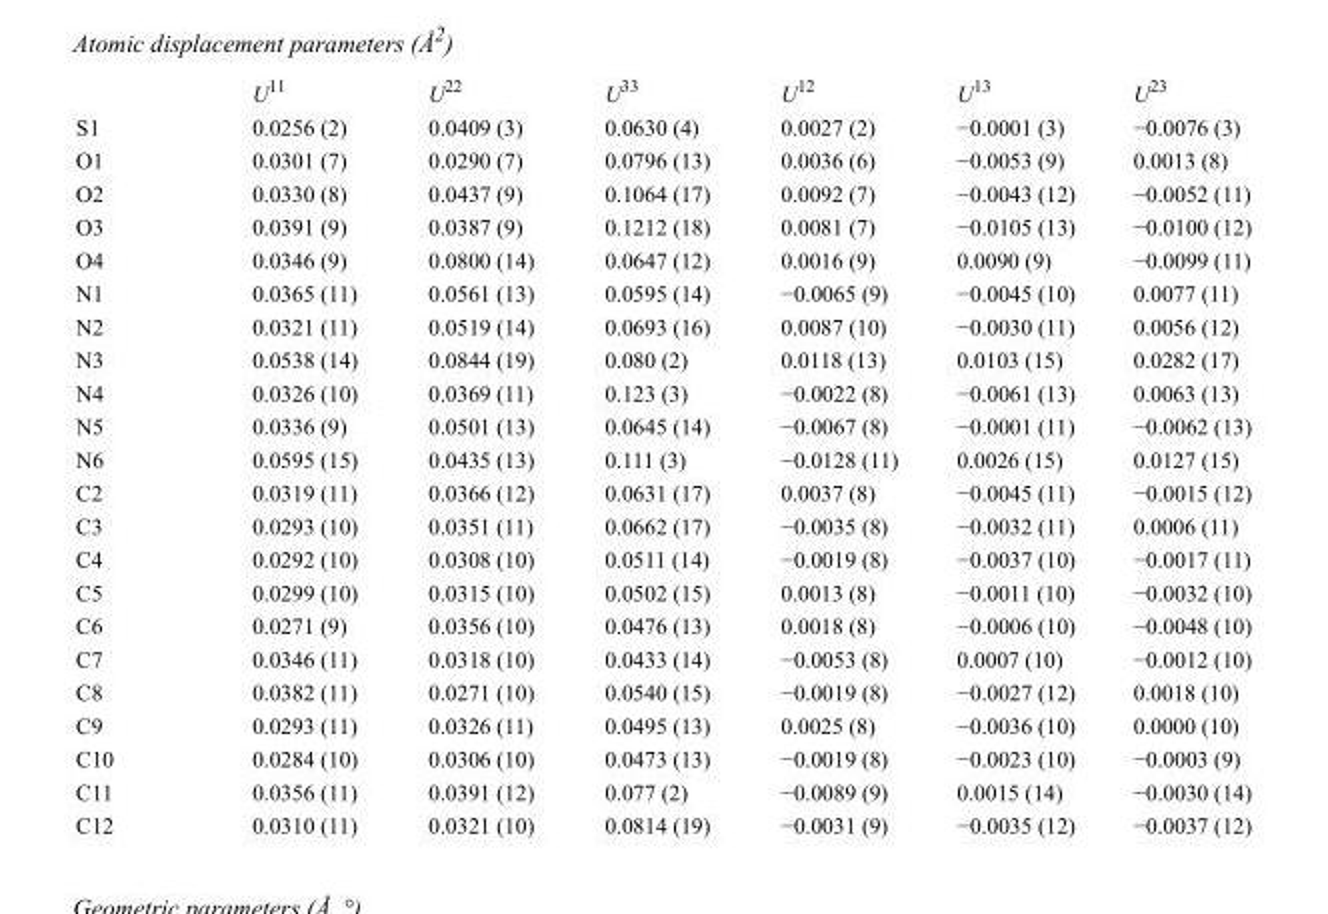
<table><thead><tr><td></td><td>U<sup>11</sup></td><td>U<sup>22</sup></td><td>U<sup>33</sup></td><td>U<sup>12</sup></td><td>U<sup>13</sup></td><td>U<sup>23</sup></td></tr></thead><tbody><tr><td>S1</td><td>0.0256 (2)</td><td>0.0409 (3)</td><td>0.0630 (4)</td><td>0.0027 (2)</td><td>−0.0001 (3)</td><td>−0.0076 (3)</td></tr><tr><td>O1</td><td>0.0301 (7)</td><td>0.0290 (7)</td><td>0.0796 (13)</td><td>0.0036 (6)</td><td>−0.0053 (9)</td><td>0.0013 (8)</td></tr><tr><td>O2</td><td>0.0330 (8)</td><td>0.0437 (9)</td><td>0.1064 (17)</td><td>0.0092 (7)</td><td>−0.0043 (12)</td><td>−0.0052 (11)</td></tr><tr><td>O3</td><td>0.0391 (9)</td><td>0.0387 (9)</td><td>0.1212 (18)</td><td>0.0081 (7)</td><td>−0.0105 (13)</td><td>−0.0100 (12)</td></tr><tr><td>O4</td><td>0.0346 (9)</td><td>0.0800 (14)</td><td>0.0647 (12)</td><td>0.0016 (9)</td><td>0.0090 (9)</td><td>−0.0099 (11)</td></tr><tr><td>N1</td><td>0.0365 (11)</td><td>0.0561 (13)</td><td>0.0595 (14)</td><td>−0.0065 (9)</td><td>−0.0045 (10)</td><td>0.0077 (11)</td></tr><tr><td>N2</td><td>0.0321 (11)</td><td>0.0519 (14)</td><td>0.0693 (16)</td><td>0.0087 (10)</td><td>−0.0030 (11)</td><td>0.0056 (12)</td></tr><tr><td>N3</td><td>0.0538 (14)</td><td>0.0844 (19)</td><td>0.080 (2)</td><td>0.0118 (13)</td><td>0.0103 (15)</td><td>0.0282 (17)</td></tr><tr><td>N4</td><td>0.0326 (10)</td><td>0.0369 (11)</td><td>0.123 (3)</td><td>−0.0022 (8)</td><td>−0.0061 (13)</td><td>0.0063 (13)</td></tr><tr><td>N5</td><td>0.0336 (9)</td><td>0.0501 (13)</td><td>0.0645 (14)</td><td>−0.0067 (8)</td><td>−0.0001 (11)</td><td>−0.0062 (13)</td></tr><tr><td>N6</td><td>0.0595 (15)</td><td>0.0435 (13)</td><td>0.111 (3)</td><td>−0.0128 (11)</td><td>0.0026 (15)</td><td>0.0127 (15)</td></tr><tr><td>C2</td><td>0.0319 (11)</td><td>0.0366 (12)</td><td>0.0631 (17)</td><td>0.0037 (8)</td><td>−0.0045 (11)</td><td>−0.0015 (12)</td></tr><tr><td>C3</td><td>0.0293 (10)</td><td>0.0351 (11)</td><td>0.0662 (17)</td><td>−0.0035 (8)</td><td>−0.0032 (11)</td><td>0.0006 (11)</td></tr><tr><td>C4</td><td>0.0292 (10)</td><td>0.0308 (10)</td><td>0.0511 (14)</td><td>−0.0019 (8)</td><td>−0.0037 (10)</td><td>−0.0017 (11)</td></tr><tr><td>C5</td><td>0.0299 (10)</td><td>0.0315 (10)</td><td>0.0502 (15)</td><td>0.0013 (8)</td><td>−0.0011 (10)</td><td>−0.0032 (10)</td></tr><tr><td>C6</td><td>0.0271 (9)</td><td>0.0356 (10)</td><td>0.0476 (13)</td><td>0.0018 (8)</td><td>−0.0006 (10)</td><td>−0.0048 (10)</td></tr><tr><td>C7</td><td>0.0346 (11)</td><td>0.0318 (10)</td><td>0.0433 (14)</td><td>−0.0053 (8)</td><td>0.0007 (10)</td><td>−0.0012 (10)</td></tr><tr><td>C8</td><td>0.0382 (11)</td><td>0.0271 (10)</td><td>0.0540 (15)</td><td>−0.0019 (8)</td><td>−0.0027 (12)</td><td>0.0018 (10)</td></tr><tr><td>C9</td><td>0.0293 (11)</td><td>0.0326 (11)</td><td>0.0495 (13)</td><td>0.0025 (8)</td><td>−0.0036 (10)</td><td>0.0000 (10)</td></tr><tr><td>C10</td><td>0.0284 (10)</td><td>0.0306 (10)</td><td>0.0473 (13)</td><td>−0.0019 (8)</td><td>−0.0023 (10)</td><td>−0.0003 (9)</td></tr><tr><td>C11</td><td>0.0356 (11)</td><td>0.0391 (12)</td><td>0.077 (2)</td><td>−0.0089 (9)</td><td>0.0015 (14)</td><td>−0.0030 (14)</td></tr><tr><td>C12</td><td>0.0310 (11)</td><td>0.0321 (10)</td><td>0.0814 (19)</td><td>−0.0031 (9)</td><td>−0.0035 (12)</td><td>−0.0037 (12)</td></tr></tbody></table>